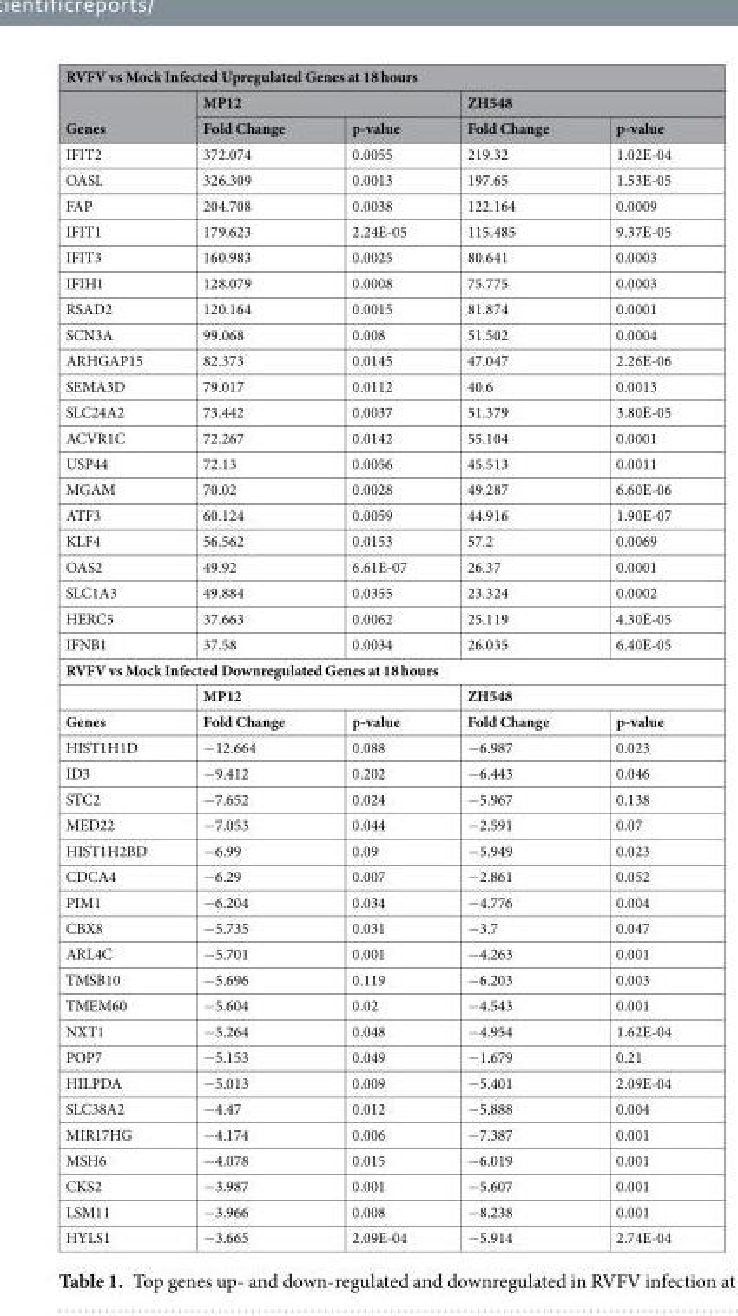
<table><thead><tr><td colspan="5">RVFV vs Mock Infected Upregulated Genes at 18 hours</td></tr><tr><td rowspan="2">Genes</td><td colspan="2">MP12</td><td colspan="2">ZH548</td></tr><tr><td>Fold Change</td><td>p-value</td><td>Fold Change</td><td>p-value</td></tr></thead><tbody><tr><td>IFIT2</td><td>372.074</td><td>0.0055</td><td>219.32</td><td>1.02E-04</td></tr><tr><td>OASL</td><td>326.309</td><td>0.0013</td><td>197.65</td><td>1.53E-05</td></tr><tr><td>FAP</td><td>204.708</td><td>0.0038</td><td>122.164</td><td>0.0009</td></tr><tr><td>IFIT1</td><td>179.623</td><td>2.24E-05</td><td>115.485</td><td>9.37E-05</td></tr><tr><td>IFIT3</td><td>160.983</td><td>0.0025</td><td>80.641</td><td>0.0003</td></tr><tr><td>IFIH1</td><td>128.079</td><td>0.0008</td><td>75.775</td><td>0.0003</td></tr><tr><td>RSAD2</td><td>120.164</td><td>0.0015</td><td>81.874</td><td>0.0001</td></tr><tr><td>SCN3A</td><td>99.068</td><td>0.008</td><td>51.502</td><td>0.0004</td></tr><tr><td>ARHGAP15</td><td>82.373</td><td>0.0145</td><td>47.047</td><td>2.26E-06</td></tr><tr><td>SEMA3D</td><td>79.017</td><td>0.0112</td><td>40.6</td><td>0.0013</td></tr><tr><td>SLC24A2</td><td>73.442</td><td>0.0037</td><td>51.379</td><td>3.80E-05</td></tr><tr><td>ACVR1C</td><td>72.267</td><td>0.0142</td><td>55.104</td><td>0.0001</td></tr><tr><td>USP44</td><td>72.13</td><td>0.0056</td><td>45.513</td><td>0.0011</td></tr><tr><td>MGAM</td><td>70.02</td><td>0.0028</td><td>49.287</td><td>6.60E-06</td></tr><tr><td>ATF3</td><td>60.124</td><td>0.0059</td><td>44.916</td><td>1.90E-07</td></tr><tr><td>KLF4</td><td>56.562</td><td>0.0153</td><td>57.2</td><td>0.0069</td></tr><tr><td>OAS2</td><td>49.92</td><td>6.61E-07</td><td>26.37</td><td>0.0001</td></tr><tr><td>SLC1A3</td><td>49.884</td><td>0.0355</td><td>23.324</td><td>0.0002</td></tr><tr><td>HERC5</td><td>37.663</td><td>0.0062</td><td>25.119</td><td>4.30E-05</td></tr><tr><td>IFNB1</td><td>37.58</td><td>0.0034</td><td>26.035</td><td>6.40E-05</td></tr><tr><td colspan="5">RVFV vs Mock Infected Downregulated Genes at 18 hours</td></tr><tr><td></td><td colspan="2">MP12</td><td colspan="2">ZH548</td></tr><tr><td>Genes</td><td>Fold Change</td><td>p-value</td><td>Fold Change</td><td>p-value</td></tr><tr><td>HIST1H1D</td><td>−12.664</td><td>0.088</td><td>−6.987</td><td>0.023</td></tr><tr><td>ID3</td><td>−9.412</td><td>0.202</td><td>−6.443</td><td>0.046</td></tr><tr><td>STC2</td><td>−7.652</td><td>0.024</td><td>−5.967</td><td>0.138</td></tr><tr><td>MED22</td><td>−7.053</td><td>0.044</td><td>−2.591</td><td>0.07</td></tr><tr><td>HIST1H2BD</td><td>−6.99</td><td>0.09</td><td>−5.949</td><td>0.023</td></tr><tr><td>CDCA4</td><td>−6.29</td><td>0.007</td><td>−2.861</td><td>0.052</td></tr><tr><td>PIM1</td><td>−6.204</td><td>0.034</td><td>−4.776</td><td>0.004</td></tr><tr><td>CBX8</td><td>−5.735</td><td>0.031</td><td>−3.7</td><td>0.047</td></tr><tr><td>ARL4C</td><td>−5.701</td><td>0.001</td><td>−4.263</td><td>0.001</td></tr><tr><td>TMSB10</td><td>−5.696</td><td>0.119</td><td>−6.203</td><td>0.003</td></tr><tr><td>TMEM60</td><td>−5.604</td><td>0.02</td><td>−4.543</td><td>0.001</td></tr><tr><td>NXT1</td><td>−5.264</td><td>0.048</td><td>−4.954</td><td>1.62E-04</td></tr><tr><td>POP7</td><td>−5.153</td><td>0.049</td><td>−1.679</td><td>0.21</td></tr><tr><td>HILPDA</td><td>−5.013</td><td>0.009</td><td>−5.401</td><td>2.09E-04</td></tr><tr><td>SLC38A2</td><td>−4.47</td><td>0.012</td><td>−5.888</td><td>0.004</td></tr><tr><td>MIR17HG</td><td>−4.174</td><td>0.006</td><td>−7.387</td><td>0.001</td></tr><tr><td>MSH6</td><td>−4.078</td><td>0.015</td><td>−6.019</td><td>0.001</td></tr><tr><td>CKS2</td><td>−3.987</td><td>0.001</td><td>−5.607</td><td>0.001</td></tr><tr><td>LSM11</td><td>−3.966</td><td>0.008</td><td>−8.238</td><td>0.001</td></tr><tr><td>HYLS1</td><td>−3.665</td><td>2.09E-04</td><td>−5.914</td><td>2.74E-04</td></tr></tbody></table>